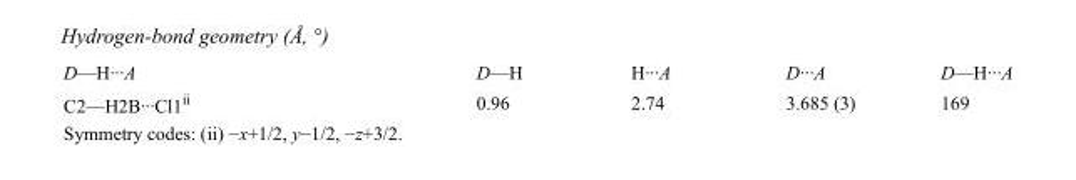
<table><tbody><tr><td>D—H···A</td><td>D—H</td><td>H···A</td><td>D···A</td><td>D—H···A</td></tr><tr><td>C2—H2B···Cl1<sup>ii</sup></td><td>0.96</td><td>2.74</td><td>3.685 (3)</td><td>169</td></tr></tbody></table>